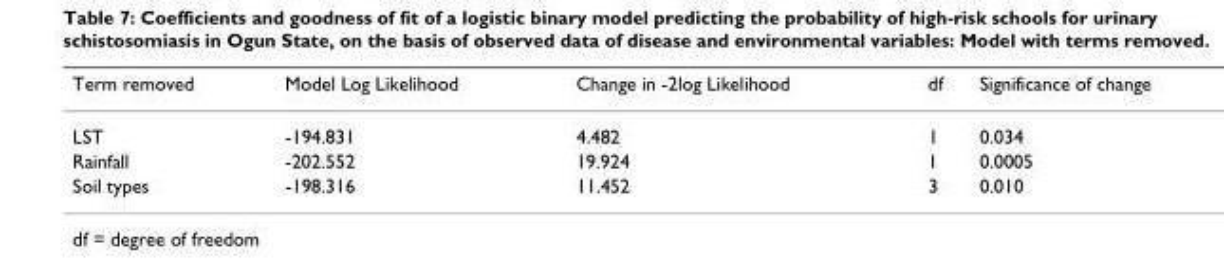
<table><thead><tr><td>Term removed</td><td>Model Log Likelihood</td><td>Change in -2log Likelihood</td><td>df</td><td>Significance of change</td></tr></thead><tbody><tr><td>LST</td><td>-194.831</td><td>4.482</td><td>1</td><td>0.034</td></tr><tr><td>Rainfall</td><td>-202.552</td><td>19.924</td><td>1</td><td>0.0005</td></tr><tr><td>Soil types</td><td>-198.316</td><td>11.452</td><td>3</td><td>0.010</td></tr></tbody></table>